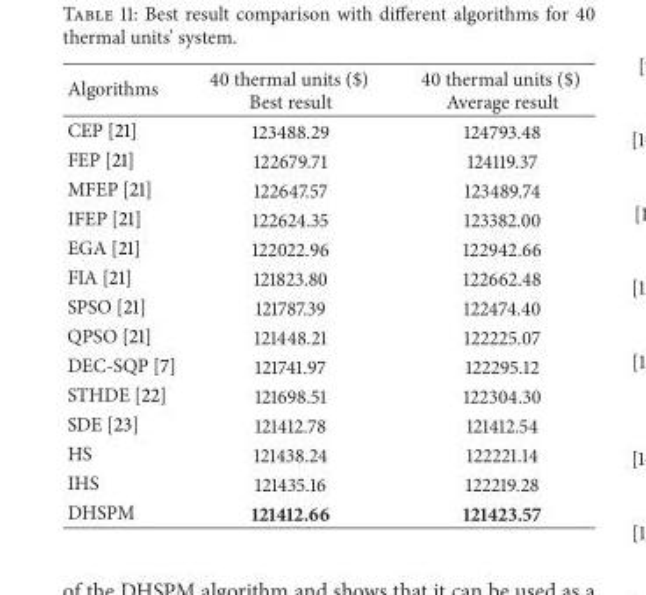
<table><thead><tr><td>Algorithms</td><td>40 thermal units ($) Best result</td><td>40 thermal units ($) Average result</td></tr></thead><tbody><tr><td>CEP [21]</td><td>123488.29</td><td>124793.48</td></tr><tr><td>FEP [21]</td><td>122679.71</td><td>124119.37</td></tr><tr><td>MFEP [21]</td><td>122647.57</td><td>123489.74</td></tr><tr><td>IFEP [21]</td><td>122624.35</td><td>123382.00</td></tr><tr><td>EGA [21]</td><td>122022.96</td><td>122942.66</td></tr><tr><td>FIA [21]</td><td>121823.80</td><td>122662.48</td></tr><tr><td>SPSO [21]</td><td>121787.39</td><td>122474.40</td></tr><tr><td>QPSO [21]</td><td>121448.21</td><td>122225.07</td></tr><tr><td>DEC-SQP [7]</td><td>121741.97</td><td>122295.12</td></tr><tr><td>STHDE [22]</td><td>121698.51</td><td>122304.30</td></tr><tr><td>SDE [23]</td><td>121412.78</td><td>121412.54</td></tr><tr><td>HS</td><td>121438.24</td><td>122221.14</td></tr><tr><td>IHS</td><td>121435.16</td><td>122219.28</td></tr><tr><td>DHSPM</td><td>121412.66</td><td>121423.57</td></tr></tbody></table>